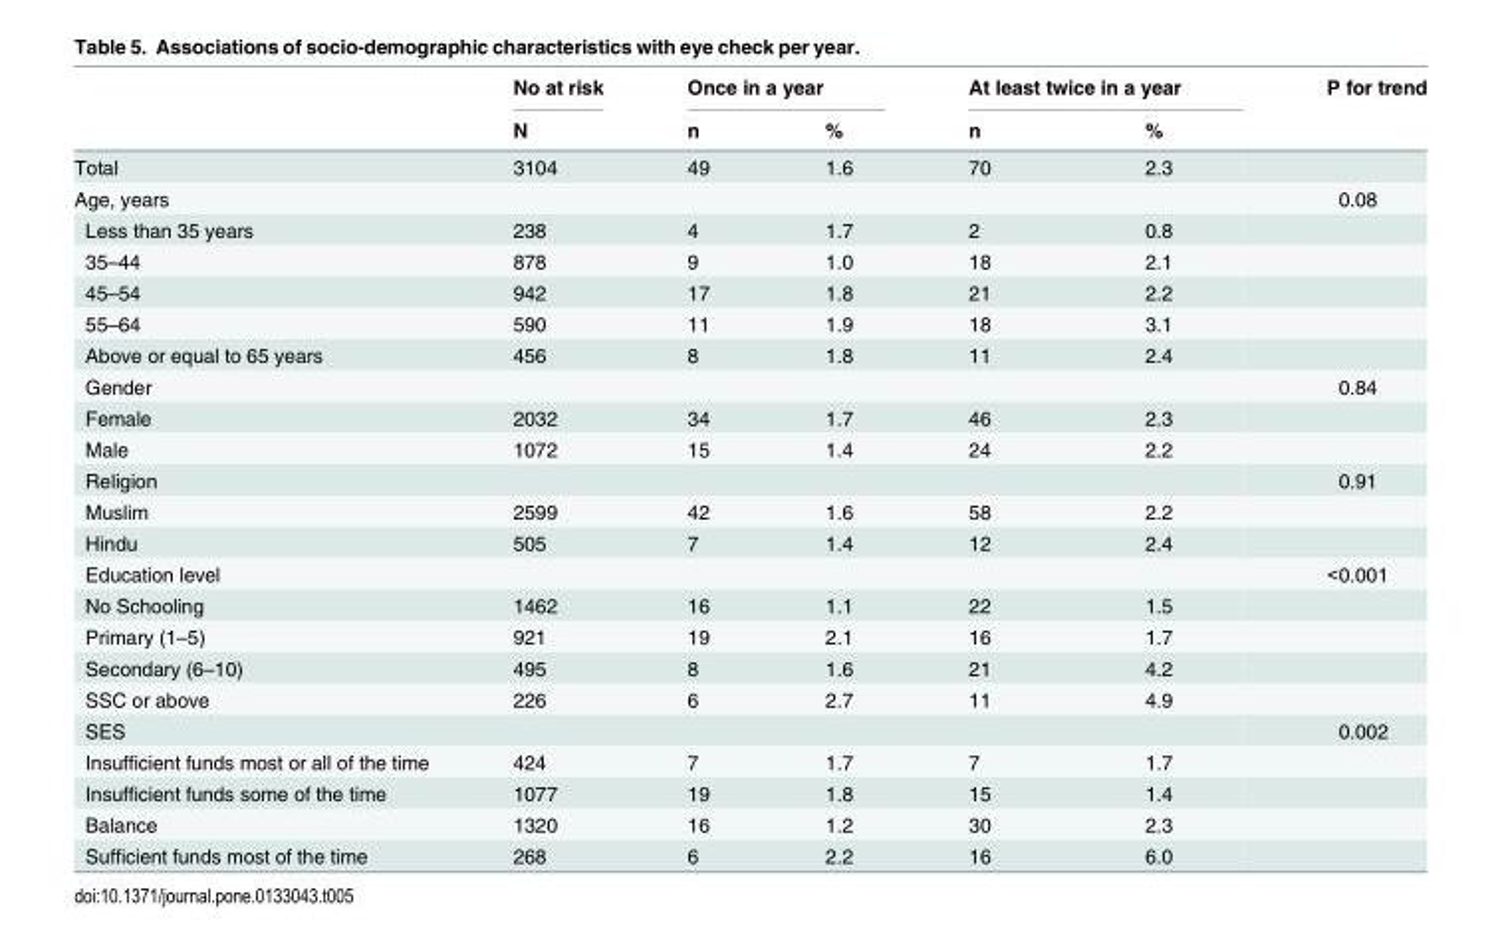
<table><thead><tr><td rowspan="2"></td><td rowspan="2">No at risk N</td><td colspan="2">Once in a year</td><td colspan="2">At least twice in a year</td><td rowspan="2">P for trend</td></tr><tr><td>n</td><td>%</td><td>n</td><td>%</td></tr></thead><tbody><tr><td>Total</td><td>3104</td><td>49</td><td>1.6</td><td>70</td><td>2.3</td><td></td></tr><tr><td>Age, years</td><td></td><td></td><td></td><td></td><td></td><td>0.08</td></tr><tr><td>Less than 35 years</td><td>238</td><td>4</td><td>1.7</td><td>2</td><td>0.8</td><td></td></tr><tr><td>35–44</td><td>878</td><td>9</td><td>1.0</td><td>18</td><td>2.1</td><td></td></tr><tr><td>45–54</td><td>942</td><td>17</td><td>1.8</td><td>21</td><td>2.2</td><td></td></tr><tr><td>55–64</td><td>590</td><td>11</td><td>1.9</td><td>18</td><td>3.1</td><td></td></tr><tr><td>Above or equal to 65 years</td><td>456</td><td>8</td><td>1.8</td><td>11</td><td>2.4</td><td></td></tr><tr><td>Gender</td><td></td><td></td><td></td><td></td><td></td><td>0.84</td></tr><tr><td>Female</td><td>2032</td><td>34</td><td>1.7</td><td>46</td><td>2.3</td><td></td></tr><tr><td>Male</td><td>1072</td><td>15</td><td>1.4</td><td>24</td><td>2.2</td><td></td></tr><tr><td>Religion</td><td></td><td></td><td></td><td></td><td></td><td>0.91</td></tr><tr><td>Muslim</td><td>2599</td><td>42</td><td>1.6</td><td>58</td><td>2.2</td><td></td></tr><tr><td>Hindu</td><td>505</td><td>7</td><td>1.4</td><td>12</td><td>2.4</td><td></td></tr><tr><td>Education level</td><td></td><td></td><td></td><td></td><td></td><td>&lt;0.001</td></tr><tr><td>No Schooling</td><td>1462</td><td>16</td><td>1.1</td><td>22</td><td>1.5</td><td></td></tr><tr><td>Primary (1–5)</td><td>921</td><td>19</td><td>2.1</td><td>16</td><td>1.7</td><td></td></tr><tr><td>Secondary (6–10)</td><td>495</td><td>8</td><td>1.6</td><td>21</td><td>4.2</td><td></td></tr><tr><td>SSC or above</td><td>226</td><td>6</td><td>2.7</td><td>11</td><td>4.9</td><td></td></tr><tr><td>SES</td><td></td><td></td><td></td><td></td><td></td><td>0.002</td></tr><tr><td>Insufficient funds most or all of the time</td><td>424</td><td>7</td><td>1.7</td><td>7</td><td>1.7</td><td></td></tr><tr><td>Insufficient funds some of the time</td><td>1077</td><td>19</td><td>1.8</td><td>15</td><td>1.4</td><td></td></tr><tr><td>Balance</td><td>1320</td><td>16</td><td>1.2</td><td>30</td><td>2.3</td><td></td></tr><tr><td>Sufficient funds most of the time</td><td>268</td><td>6</td><td>2.2</td><td>16</td><td>6.0</td><td></td></tr></tbody></table>